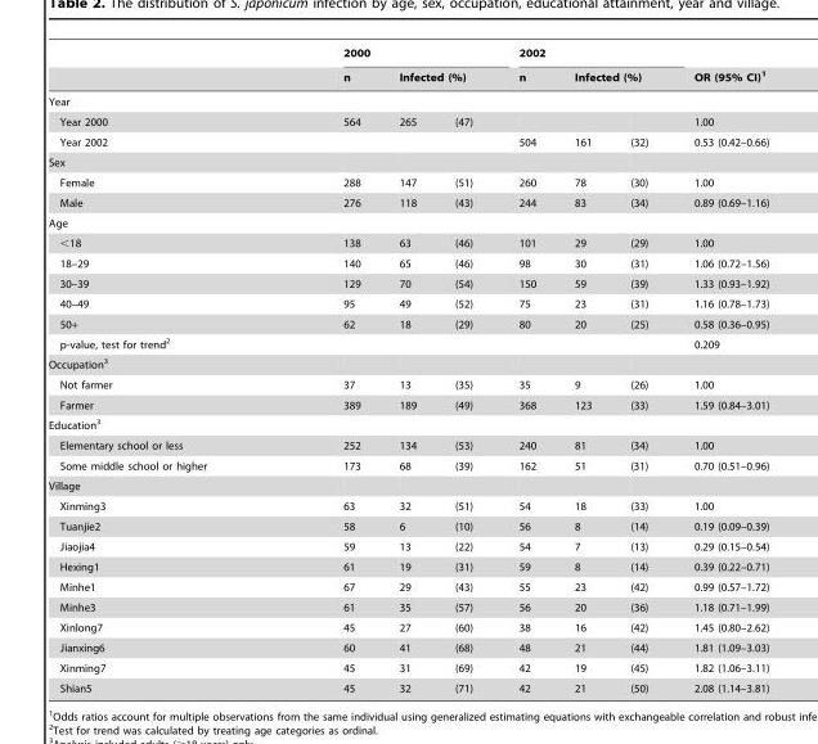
<table><thead><tr><td rowspan="3">Year</td><td colspan="3">2000</td><td colspan="3">2002</td><td rowspan="3">OR (95% CI)<sup>1</sup></td></tr><tr><td rowspan="2">n</td><td colspan="2">Infected (%)</td><td rowspan="2">n</td><td colspan="2">Infected (%)</td></tr><tr><td></td><td></td><td></td><td></td></tr></thead><tbody><tr><td>Year 2000</td><td>564</td><td>265</td><td>(47)</td><td></td><td></td><td></td><td>1.00</td></tr><tr><td>Year 2002</td><td></td><td></td><td></td><td>504</td><td>161</td><td>(32)</td><td>0.53 (0.42–0.66)</td></tr><tr><td colspan="8">Sex</td></tr><tr><td>Female</td><td>288</td><td>147</td><td>(51)</td><td>260</td><td>78</td><td>(30)</td><td>1.00</td></tr><tr><td>Male</td><td>276</td><td>118</td><td>(43)</td><td>244</td><td>83</td><td>(34)</td><td>0.89 (0.69–1.16)</td></tr><tr><td colspan="8">Age</td></tr><tr><td>&lt;18</td><td>138</td><td>63</td><td>(46)</td><td>101</td><td>29</td><td>(29)</td><td>1.00</td></tr><tr><td>18–29</td><td>140</td><td>65</td><td>(46)</td><td>98</td><td>30</td><td>(31)</td><td>1.06 (0.72–1.56)</td></tr><tr><td>30–39</td><td>129</td><td>70</td><td>(54)</td><td>150</td><td>59</td><td>(39)</td><td>1.33 (0.93–1.92)</td></tr><tr><td>40–49</td><td>95</td><td>49</td><td>(52)</td><td>75</td><td>23</td><td>(31)</td><td>1.16 (0.78–1.73)</td></tr><tr><td>50+</td><td>62</td><td>18</td><td>(29)</td><td>80</td><td>20</td><td>(25)</td><td>0.58 (0.36–0.95)</td></tr><tr><td>p-value, test for trend<sup>2</sup></td><td></td><td></td><td></td><td></td><td></td><td></td><td>0.209</td></tr><tr><td colspan="8">Occupation<sup>3</sup></td></tr><tr><td>Not farmer</td><td>37</td><td>13</td><td>(35)</td><td>35</td><td>9</td><td>(26)</td><td>1.00</td></tr><tr><td>Farmer</td><td>389</td><td>189</td><td>(49)</td><td>368</td><td>123</td><td>(33)</td><td>1.59 (0.84–3.01)</td></tr><tr><td colspan="8">Education<sup>3</sup></td></tr><tr><td>Elementary school or less</td><td>252</td><td>134</td><td>(53)</td><td>240</td><td>81</td><td>(34)</td><td>1.00</td></tr><tr><td>Some middle school or higher</td><td>173</td><td>68</td><td>(39)</td><td>162</td><td>51</td><td>(31)</td><td>0.70 (0.51–0.96)</td></tr><tr><td colspan="8">Village</td></tr><tr><td>Xinming3</td><td>63</td><td>32</td><td>(51)</td><td>54</td><td>18</td><td>(33)</td><td>1.00</td></tr><tr><td>Tuanjie2</td><td>58</td><td>6</td><td>(10)</td><td>56</td><td>8</td><td>(14)</td><td>0.19 (0.09–0.39)</td></tr><tr><td>Jiaojia4</td><td>59</td><td>13</td><td>(22)</td><td>54</td><td>7</td><td>(13)</td><td>0.29 (0.15–0.54)</td></tr><tr><td>Hexing1</td><td>61</td><td>19</td><td>(31)</td><td>59</td><td>8</td><td>(14)</td><td>0.39 (0.22–0.71)</td></tr><tr><td>Minhe1</td><td>67</td><td>29</td><td>(43)</td><td>55</td><td>23</td><td>(42)</td><td>0.99 (0.57–1.72)</td></tr><tr><td>Minhe3</td><td>61</td><td>35</td><td>(57)</td><td>56</td><td>20</td><td>(36)</td><td>1.18 (0.71–1.99)</td></tr><tr><td>Xinlong7</td><td>45</td><td>27</td><td>(60)</td><td>38</td><td>16</td><td>(42)</td><td>1.45 (0.80–2.62)</td></tr><tr><td>Jianxing6</td><td>60</td><td>41</td><td>(68)</td><td>48</td><td>21</td><td>(44)</td><td>1.81 (1.09–3.03)</td></tr><tr><td>Xinming7</td><td>45</td><td>31</td><td>(69)</td><td>42</td><td>19</td><td>(45)</td><td>1.82 (1.06–3.11)</td></tr><tr><td>Shian5</td><td>45</td><td>32</td><td>(71)</td><td>42</td><td>21</td><td>(50)</td><td>2.08 (1.14–3.81)</td></tr></tbody></table>